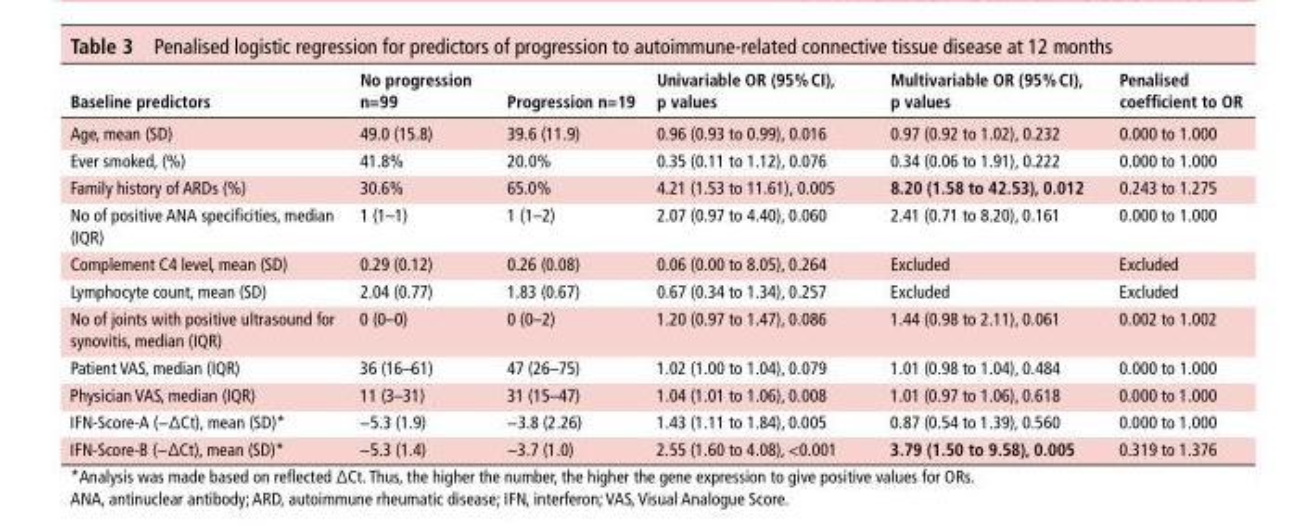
<table><thead><tr><td>baseline predictors</td><td>no progression n=99</td><td>Progression n=19</td><td>univariable Or (95% CI), p values</td><td>Multivariable Or (95% CI), p values</td><td>Penalised coefficient to Or</td></tr></thead><tbody><tr><td>Age, mean (SD)</td><td>49.0 (15.8)</td><td>39.6 (11.9)</td><td>0.96 (0.93 to 0.99), 0.016</td><td>0.97 (0.92 to 1.02), 0.232</td><td>0.000 to 1.000</td></tr><tr><td>Ever smoked, (%)</td><td>41.8%</td><td>20.0%</td><td>0.35 (0.11 to 1.12), 0.076</td><td>0.34 (0.06 to 1.91), 0.222</td><td>0.000 to 1.000</td></tr><tr><td>Family history of ARDs (%)</td><td>30.6%</td><td>65.0%</td><td>4.21 (1.53 to 11.61), 0.005</td><td>8.20 (1.58 to 42.53), 0.012</td><td>0.243 to 1.275</td></tr><tr><td>No of positive ANA specificities, median (IQR)</td><td>1 (1–1)</td><td>1 (1–2)</td><td>2.07 (0.97 to 4.40), 0.060</td><td>2.41 (0.71 to 8.20), 0.161</td><td>0.000 to 1.000</td></tr><tr><td>Complement C4 level, mean (SD)</td><td>0.29 (0.12)</td><td>0.26 (0.08)</td><td>0.06 (0.00 to 8.05), 0.264</td><td>Excluded</td><td>Excluded</td></tr><tr><td>Lymphocyte count, mean (SD)</td><td>2.04 (0.77)</td><td>1.83 (0.67)</td><td>0.67 (0.34 to 1.34), 0.257</td><td>Excluded</td><td>Excluded</td></tr><tr><td>No of joints with positive ultrasound for synovitis, median (IQR)</td><td>0 (0–0)</td><td>0 (0–2)</td><td>1.20 (0.97 to 1.47), 0.086</td><td>1.44 (0.98 to 2.11), 0.061</td><td>0.002 to 1.002</td></tr><tr><td>Patient VAS, median (IQR)</td><td>36 (16–61)</td><td>47 (26–75)</td><td>1.02 (1.00 to 1.04), 0.079</td><td>1.01 (0.98 to 1.04), 0.484</td><td>0.000 to 1.000</td></tr><tr><td>Physician VAS, median (IQR)</td><td>11 (3–31)</td><td>31 (15–47)</td><td>1.04 (1.01 to 1.06), 0.008</td><td>1.01 (0.97 to 1.06), 0.618</td><td>0.000 to 1.000</td></tr><tr><td>IFN-Score-A (−ΔCt), mean (SD)*</td><td>−5.3 (1.9)</td><td>−3.8 (2.26)</td><td>1.43 (1.11 to 1.84), 0.005</td><td>0.87 (0.54 to 1.39), 0.560</td><td>0.000 to 1.000</td></tr><tr><td>IFN-Score-B (−ΔCt), mean (SD)*</td><td>−5.3 (1.4)</td><td>−3.7 (1.0)</td><td>2.55 (1.60 to 4.08), &lt;0.001</td><td>3.79 (1.50 to 9.58), 0.005</td><td>0.319 to 1.376</td></tr></tbody></table>